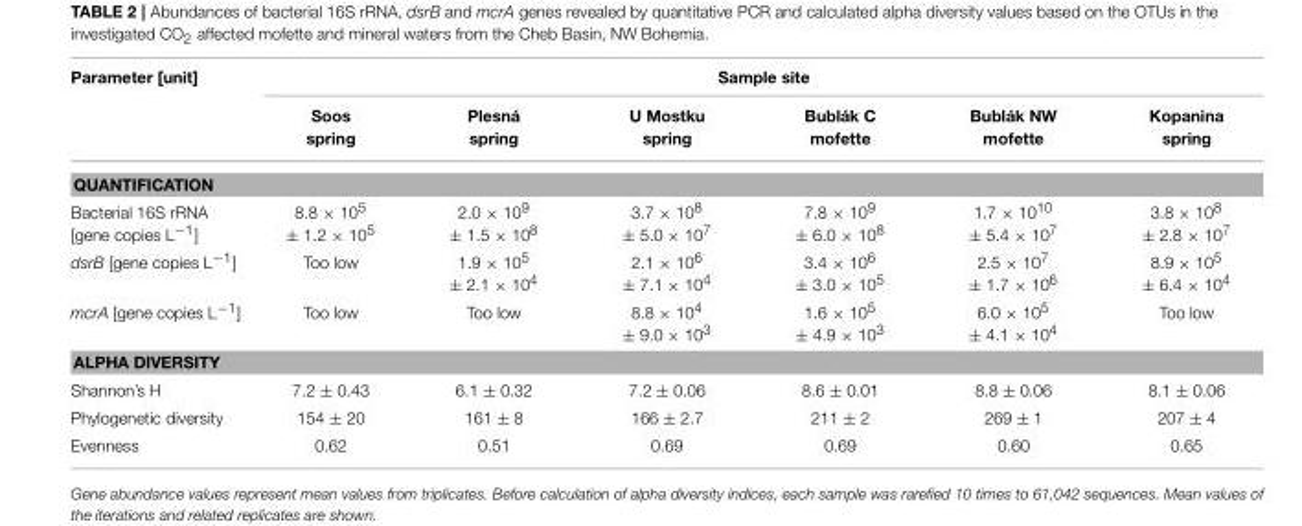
<table><thead><tr><td rowspan="2">Parameter [unit]</td><td colspan="6">Sample site</td></tr><tr><td>Soos spring</td><td>Plesná spring</td><td>U Mostku spring</td><td>Bublák C mofette</td><td>Bublák NW mofette</td><td>Kopanina spring</td></tr></thead><tbody><tr><td colspan="7">QUANTIFICATION</td></tr><tr><td>Bacterial 16S rRNA [gene copies L<sup>−1</sup>]</td><td>8.8 × 10<sup>5</sup> ± 1.2 × 10<sup>5</sup></td><td>2.0 × 10<sup>9</sup> ± 1.5 × 10<sup>8</sup></td><td>3.7 × 10<sup>8</sup> ± 5.0 × 10<sup>7</sup></td><td>7.8 × 10<sup>9</sup> ± 6.0 × 10<sup>8</sup></td><td>1.7 × 10<sup>10</sup> ± 5.4 × 10<sup>7</sup></td><td>3.8 × 10<sup>8</sup> ± 2.8 × 10<sup>7</sup></td></tr><tr><td>dsrB [gene copies L<sup>−1</sup>]</td><td>Too low</td><td>1.9 × 10<sup>5</sup> ± 2.1 × 10<sup>4</sup></td><td>2.1 × 10<sup>6</sup> ± 7.1 × 10<sup>4</sup></td><td>3.4 × 10<sup>6</sup> ± 3.0 × 10<sup>5</sup></td><td>2.5 × 10<sup>7</sup> ± 1.7 × 10<sup>6</sup></td><td>8.9 × 10<sup>5</sup> ± 6.4 × 10<sup>4</sup></td></tr><tr><td>mcrA [gene copies L<sup>−1</sup>]</td><td>Too low</td><td>Too low</td><td>8.8 × 10<sup>4</sup> ± 9.0 × 10<sup>3</sup></td><td>1.6 × 10<sup>5</sup> ± 4.9 × 10<sup>3</sup></td><td>6.0 × 10<sup>5</sup> ± 4.1 × 10<sup>4</sup></td><td>Too low</td></tr><tr><td colspan="7">ALPHA DIVERSITY</td></tr><tr><td>Shannon’s H</td><td>7.2 ± 0.43</td><td>6.1 ± 0.32</td><td>7.2 ± 0.06</td><td>8.6 ± 0.01</td><td>8.8 ± 0.06</td><td>8.1 ± 0.06</td></tr><tr><td>Phylogenetic diversity</td><td>154 ± 20</td><td>161 ± 8</td><td>166 ± 2.7</td><td>211 ± 2</td><td>269 ± 1</td><td>207 ± 4</td></tr><tr><td>Evenness</td><td>0.62</td><td>0.51</td><td>0.69</td><td>0.69</td><td>0.60</td><td>0.65</td></tr></tbody></table>